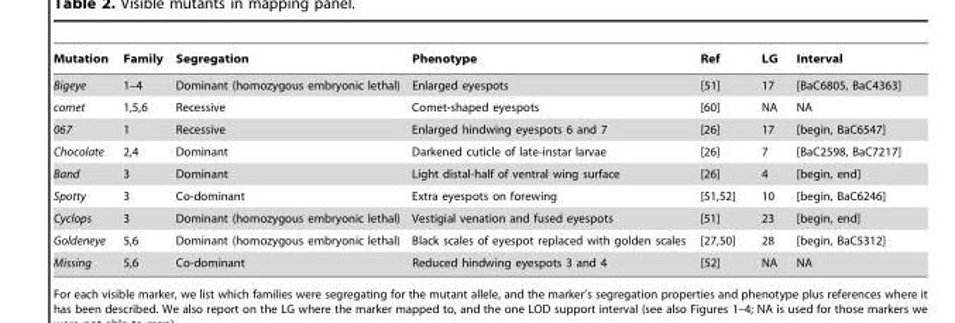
<table><thead><tr><td>Mutation</td><td>Family</td><td>Segregation</td><td>Phenotype</td><td>Ref</td><td>LG</td><td>Interval</td></tr></thead><tbody><tr><td>Bigeye</td><td>1–4</td><td>Dominant (homozygous embryonic lethal)</td><td>Enlarged eyespots</td><td>[51]</td><td>17</td><td>[BaC6805, BaC4363]</td></tr><tr><td>comet</td><td>1,5,6</td><td>Recessive</td><td>Comet-shaped eyespots</td><td>[60]</td><td>NA</td><td>NA</td></tr><tr><td>067</td><td>1</td><td>Recessive</td><td>Enlarged hindwing eyespots 6 and 7</td><td>[26]</td><td>17</td><td>[begin, BaC6547]</td></tr><tr><td>Chocolate</td><td>2,4</td><td>Dominant</td><td>Darkened cuticle of late-instar larvae</td><td>[26]</td><td>7</td><td>[BaC2598, BaC7217]</td></tr><tr><td>Band</td><td>3</td><td>Dominant</td><td>Light distal-half of ventral wing surface</td><td>[26]</td><td>4</td><td>[begin, end]</td></tr><tr><td>Spotty</td><td>3</td><td>Co-dominant</td><td>Extra eyespots on forewing</td><td>[51,52]</td><td>10</td><td>[begin, BaC6246]</td></tr><tr><td>Cyclops</td><td>3</td><td>Dominant (homozygous embryonic lethal)</td><td>Vestigial venation and fused eyespots</td><td>[51]</td><td>23</td><td>[begin, end]</td></tr><tr><td>Goldeneye</td><td>5,6</td><td>Dominant (homozygous embryonic lethal)</td><td>Black scales of eyespot replaced with golden scales</td><td>[27,50]</td><td>28</td><td>[begin, BaC5312]</td></tr><tr><td>Missing</td><td>5,6</td><td>Co-dominant</td><td>Reduced hindwing eyespots 3 and 4</td><td>[52]</td><td>NA</td><td>NA</td></tr></tbody></table>